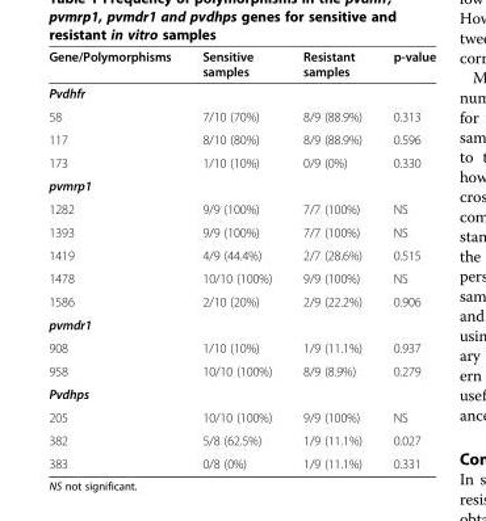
<table><thead><tr><td>Gene/Polymorphisms</td><td>Sensitive samples</td><td>Resistant samples</td><td>p-value</td></tr></thead><tbody><tr><td colspan="4">Pvdhfr</td></tr><tr><td>58</td><td>7/10 (70%)</td><td>8/9 (88.9%)</td><td>0.313</td></tr><tr><td>117</td><td>8/10 (80%)</td><td>8/9 (88.9%)</td><td>0.596</td></tr><tr><td>173</td><td>1/10 (10%)</td><td>0/9 (0%)</td><td>0.330</td></tr><tr><td colspan="4">pvmrp1</td></tr><tr><td>1282</td><td>9/9 (100%)</td><td>7/7 (100%)</td><td>NS</td></tr><tr><td>1393</td><td>9/9 (100%)</td><td>7/7 (100%)</td><td>NS</td></tr><tr><td>1419</td><td>4/9 (44.4%)</td><td>2/7 (28.6%)</td><td>0.515</td></tr><tr><td>1478</td><td>10/10 (100%)</td><td>9/9 (100%)</td><td>NS</td></tr><tr><td>1586</td><td>2/10 (20%)</td><td>2/9 (22.2%)</td><td>0.906</td></tr><tr><td colspan="4">pvmdr1</td></tr><tr><td>908</td><td>1/10 (10%)</td><td>1/9 (11.1%)</td><td>0.937</td></tr><tr><td>958</td><td>10/10 (100%)</td><td>8/9 (8.9%)</td><td>0.279</td></tr><tr><td colspan="4">Pvdhps</td></tr><tr><td>205</td><td>10/10 (100%)</td><td>9/9 (100%)</td><td>NS</td></tr><tr><td>382</td><td>5/8 (62.5%)</td><td>1/9 (11.1%)</td><td>0.027</td></tr><tr><td>383</td><td>0/8 (0%)</td><td>1/9 (11.1%)</td><td>0.331</td></tr></tbody></table>